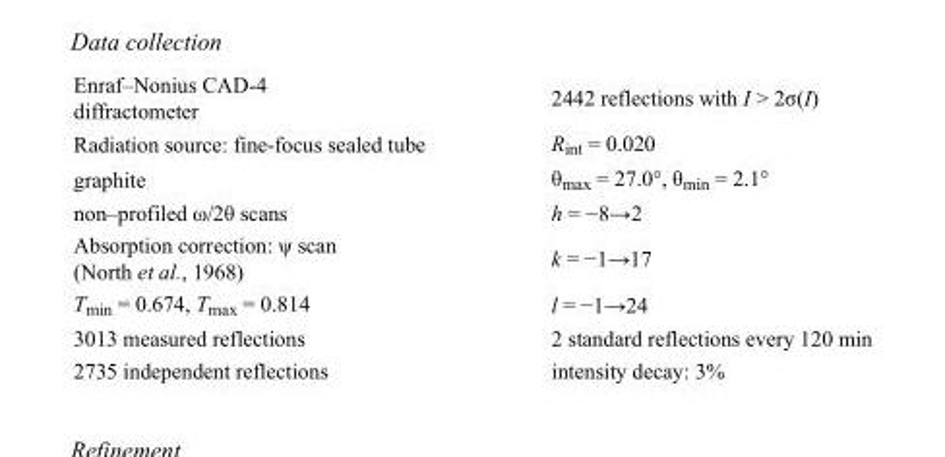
<table><tbody><tr><td>Enraf–Nonius CAD-4 diffractometer</td><td>2442 reflections with I &gt; 2σ(I)</td></tr><tr><td>Radiation source: fine-focus sealed tube</td><td>R<sub>int</sub> = 0.020</td></tr><tr><td>graphite</td><td>θ<sub>max</sub> = 27.0°, θ<sub>min</sub> = 2.1°</td></tr><tr><td>non–profiled ω/2θ scans</td><td>h = −8→2</td></tr><tr><td>Absorption correction: ψ scan (North et al., 1968)</td><td>k = −1→17</td></tr><tr><td>T<sub>min</sub> = 0.674, T<sub>max</sub> = 0.814</td><td>l = −1→24</td></tr><tr><td>3013 measured reflections</td><td>2 standard reflections every 120 min</td></tr><tr><td>2735 independent reflections</td><td>intensity decay: 3%</td></tr></tbody></table>